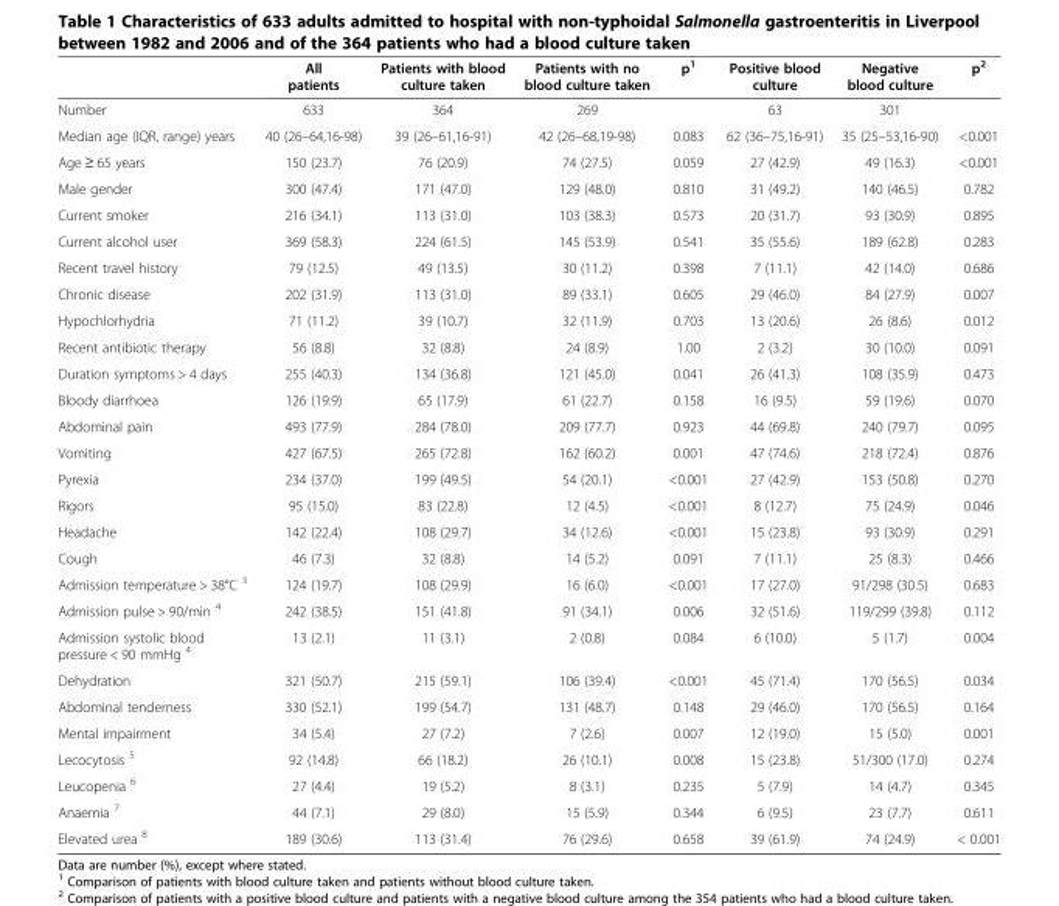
<table><thead><tr><td></td><td>All patients</td><td>Patients with blood culture taken</td><td>Patients with no blood culture taken</td><td>p<sup>1</sup></td><td>Positive blood culture</td><td>Negative blood culture</td><td>p<sup>2</sup></td></tr></thead><tbody><tr><td>Number</td><td>633</td><td>364</td><td>269</td><td></td><td>63</td><td>301</td><td></td></tr><tr><td>Median age (IQR, range) years</td><td>40 (26–64,16-98)</td><td>39 (26–61,16-91)</td><td>42 (26–68,19-98)</td><td>0.083</td><td>62 (36–75,16-91)</td><td>35 (25–53,16-90)</td><td>&lt;0.001</td></tr><tr><td>Age ≥ 65 years</td><td>150 (23.7)</td><td>76 (20.9)</td><td>74 (27.5)</td><td>0.059</td><td>27 (42.9)</td><td>49 (16.3)</td><td>&lt;0.001</td></tr><tr><td>Male gender</td><td>300 (47.4)</td><td>171 (47.0)</td><td>129 (48.0)</td><td>0.810</td><td>31 (49.2)</td><td>140 (46.5)</td><td>0.782</td></tr><tr><td>Current smoker</td><td>216 (34.1)</td><td>113 (31.0)</td><td>103 (38.3)</td><td>0.573</td><td>20 (31.7)</td><td>93 (30.9)</td><td>0.895</td></tr><tr><td>Current alcohol user</td><td>369 (58.3)</td><td>224 (61.5)</td><td>145 (53.9)</td><td>0.541</td><td>35 (55.6)</td><td>189 (62.8)</td><td>0.283</td></tr><tr><td>Recent travel history</td><td>79 (12.5)</td><td>49 (13.5)</td><td>30 (11.2)</td><td>0.398</td><td>7 (11.1)</td><td>42 (14.0)</td><td>0.686</td></tr><tr><td>Chronic disease</td><td>202 (31.9)</td><td>113 (31.0)</td><td>89 (33.1)</td><td>0.605</td><td>29 (46.0)</td><td>84 (27.9)</td><td>0.007</td></tr><tr><td>Hypochlorhydria</td><td>71 (11.2)</td><td>39 (10.7)</td><td>32 (11.9)</td><td>0.703</td><td>13 (20.6)</td><td>26 (8.6)</td><td>0.012</td></tr><tr><td>Recent antibiotic therapy</td><td>56 (8.8)</td><td>32 (8.8)</td><td>24 (8.9)</td><td>1.00</td><td>2 (3.2)</td><td>30 (10.0)</td><td>0.091</td></tr><tr><td>Duration symptoms &gt; 4 days</td><td>255 (40.3)</td><td>134 (36.8)</td><td>121 (45.0)</td><td>0.041</td><td>26 (41.3)</td><td>108 (35.9)</td><td>0.473</td></tr><tr><td>Bloody diarrhoea</td><td>126 (19.9)</td><td>65 (17.9)</td><td>61 (22.7)</td><td>0.158</td><td>16 (9.5)</td><td>59 (19.6)</td><td>0.070</td></tr><tr><td>Abdominal pain</td><td>493 (77.9)</td><td>284 (78.0)</td><td>209 (77.7)</td><td>0.923</td><td>44 (69.8)</td><td>240 (79.7)</td><td>0.095</td></tr><tr><td>Vomiting</td><td>427 (67.5)</td><td>265 (72.8)</td><td>162 (60.2)</td><td>0.001</td><td>47 (74.6)</td><td>218 (72.4)</td><td>0.876</td></tr><tr><td>Pyrexia</td><td>234 (37.0)</td><td>199 (49.5)</td><td>54 (20.1)</td><td>&lt;0.001</td><td>27 (42.9)</td><td>153 (50.8)</td><td>0.270</td></tr><tr><td>Rigors</td><td>95 (15.0)</td><td>83 (22.8)</td><td>12 (4.5)</td><td>&lt;0.001</td><td>8 (12.7)</td><td>75 (24.9)</td><td>0.046</td></tr><tr><td>Headache</td><td>142 (22.4)</td><td>108 (29.7)</td><td>34 (12.6)</td><td>&lt;0.001</td><td>15 (23.8)</td><td>93 (30.9)</td><td>0.291</td></tr><tr><td>Cough</td><td>46 (7.3)</td><td>32 (8.8)</td><td>14 (5.2)</td><td>0.091</td><td>7 (11.1)</td><td>25 (8.3)</td><td>0.466</td></tr><tr><td>Admission temperature &gt; 38°C <sup>3</sup></td><td>124 (19.7)</td><td>108 (29.9)</td><td>16 (6.0)</td><td>&lt;0.001</td><td>17 (27.0)</td><td>91/298 (30.5)</td><td>0.683</td></tr><tr><td>Admission pulse &gt; 90/min <sup>4</sup></td><td>242 (38.5)</td><td>151 (41.8)</td><td>91 (34.1)</td><td>0.006</td><td>32 (51.6)</td><td>119/299 (39.8)</td><td>0.112</td></tr><tr><td>Admission systolic blood pressure &lt; 90 mmHg <sup>4</sup></td><td>13 (2.1)</td><td>11 (3.1)</td><td>2 (0.8)</td><td>0.084</td><td>6 (10.0)</td><td>5 (1.7)</td><td>0.004</td></tr><tr><td>Dehydration</td><td>321 (50.7)</td><td>215 (59.1)</td><td>106 (39.4)</td><td>&lt;0.001</td><td>45 (71.4)</td><td>170 (56.5)</td><td>0.034</td></tr><tr><td>Abdominal tenderness</td><td>330 (52.1)</td><td>199 (54.7)</td><td>131 (48.7)</td><td>0.148</td><td>29 (46.0)</td><td>170 (56.5)</td><td>0.164</td></tr><tr><td>Mental impairment</td><td>34 (5.4)</td><td>27 (7.2)</td><td>7 (2.6)</td><td>0.007</td><td>12 (19.0)</td><td>15 (5.0)</td><td>0.001</td></tr><tr><td>Lecocytosis <sup>5</sup></td><td>92 (14.8)</td><td>66 (18.2)</td><td>26 (10.1)</td><td>0.008</td><td>15 (23.8)</td><td>51/300 (17.0)</td><td>0.274</td></tr><tr><td>Leucopenia <sup>6</sup></td><td>27 (4.4)</td><td>19 (5.2)</td><td>8 (3.1)</td><td>0.235</td><td>5 (7.9)</td><td>14 (4.7)</td><td>0.345</td></tr><tr><td>Anaemia <sup>7</sup></td><td>44 (7.1)</td><td>29 (8.0)</td><td>15 (5.9)</td><td>0.344</td><td>6 (9.5)</td><td>23 (7.7)</td><td>0.611</td></tr><tr><td>Elevated urea <sup>8</sup></td><td>189 (30.6)</td><td>113 (31.4)</td><td>76 (29.6)</td><td>0.658</td><td>39 (61.9)</td><td>74 (24.9)</td><td>&lt; 0.001</td></tr></tbody></table>